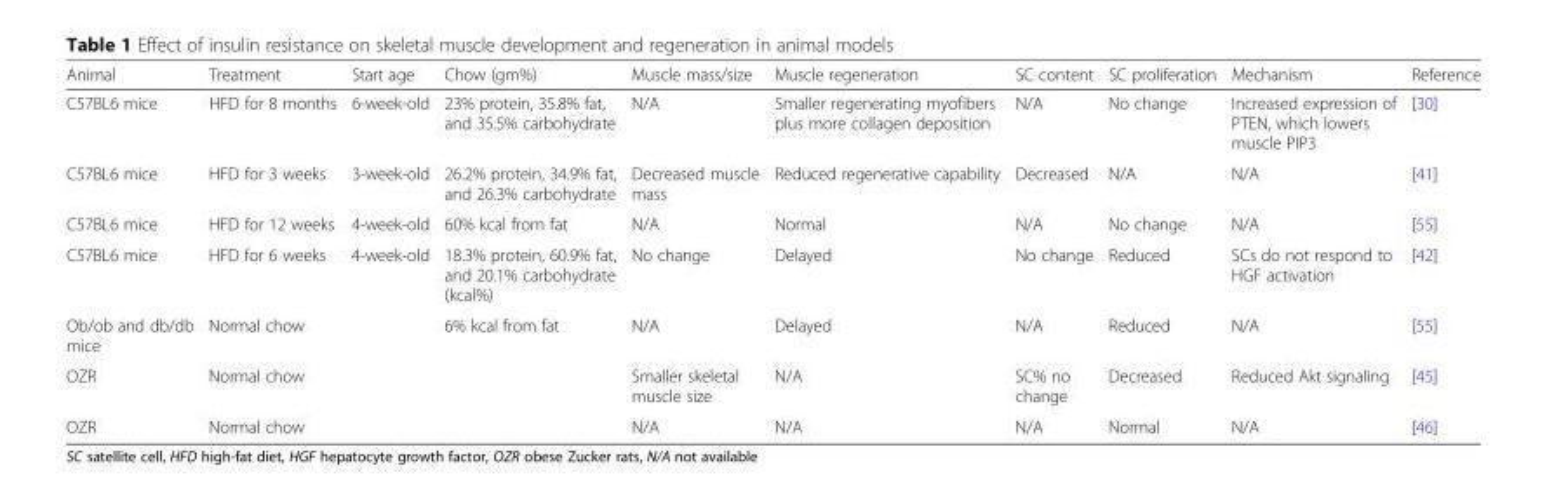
<table><thead><tr><td>Animal</td><td>Treatment</td><td>Start age</td><td>Chow (gm%)</td><td>Muscle mass/size</td><td>Muscle regeneration</td><td>SC content</td><td>SC proliferation</td><td>Mechanism</td><td>Reference</td></tr></thead><tbody><tr><td>C57BL6 mice</td><td>HFD for 8 months</td><td>6-week-old</td><td>23% protein, 35.8% fat, and 35.5% carbohydrate</td><td>N/A</td><td>Smaller regenerating myofibers plus more collagen deposition</td><td>N/A</td><td>No change</td><td>Increased expression of PTEN, which lowers muscle PIP3</td><td>[30]</td></tr><tr><td>C57BL6 mice</td><td>HFD for 3 weeks</td><td>3-week-old</td><td>26.2% protein, 34.9% fat, and 26.3% carbohydrate</td><td>Decreased muscle mass</td><td>Reduced regenerative capability</td><td>Decreased</td><td>N/A</td><td>N/A</td><td>[41]</td></tr><tr><td>C57BL6 mice</td><td>HFD for 12 weeks</td><td>4-week-old</td><td>60% kcal from fat</td><td>N/A</td><td>Normal</td><td>N/A</td><td>No change</td><td>N/A</td><td>[55]</td></tr><tr><td>C57BL6 mice</td><td>HFD for 6 weeks</td><td>4-week-old</td><td>18.3% protein, 60.9% fat, and 20.1% carbohydrate (kcal%)</td><td>No change</td><td>Delayed</td><td>No change</td><td>Reduced</td><td>SCs do not respond to HGF activation</td><td>[42]</td></tr><tr><td>Ob/ob and db/db mice</td><td>Normal chow</td><td></td><td>6% kcal from fat</td><td>N/A</td><td>Delayed</td><td>N/A</td><td>Reduced</td><td>N/A</td><td>[55]</td></tr><tr><td>OZR</td><td>Normal chow</td><td></td><td></td><td>Smaller skeletal muscle size</td><td>N/A</td><td>SC% no change</td><td>Decreased</td><td>Reduced Akt signaling</td><td>[45]</td></tr><tr><td>OZR</td><td>Normal chow</td><td></td><td></td><td>N/A</td><td>N/A</td><td>N/A</td><td>Normal</td><td>N/A</td><td>[46]</td></tr></tbody></table>